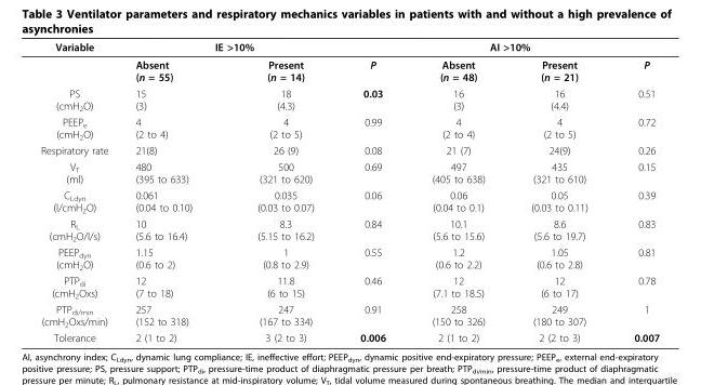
<table><thead><tr><td rowspan="2">Variable</td><td colspan="2">IE &gt;10%</td><td rowspan="2">P</td><td colspan="2">AI &gt;10%</td><td rowspan="2">P</td></tr><tr><td>Absent (n = 55)</td><td>Present (n = 14)</td><td>Absent (n = 48)</td><td>Present (n = 21)</td></tr></thead><tbody><tr><td>PS (cmH<sub>2</sub>O)</td><td>15 (3)</td><td>18 (4.3)</td><td>0.03</td><td>16 (3)</td><td>16 (4.4)</td><td>0.51</td></tr><tr><td>PEEP<sub>e</sub> (cmH<sub>2</sub>O)</td><td>4 (2 to 4)</td><td>4 (2 to 5)</td><td>0.99</td><td>4 (2 to 4)</td><td>4 (2 to 5)</td><td>0.72</td></tr><tr><td>Respiratory rate</td><td>21(8)</td><td>26 (9)</td><td>0.08</td><td>21 (7)</td><td>24(9)</td><td>0.26</td></tr><tr><td>V<sub>T</sub> (ml)</td><td>480 (395 to 633)</td><td>500 (321 to 620)</td><td>0.69</td><td>497 (405 to 638)</td><td>435 (321 to 610)</td><td>0.15</td></tr><tr><td>C<sub>Ldyn</sub> (l/cmH<sub>2</sub>O)</td><td>0.061 (0.04 to 0.10)</td><td>0.035 (0.03 to 0.07)</td><td>0.06</td><td>0.06 (0.04 to 0.1)</td><td>0.05 (0.03 to 0.11)</td><td>0.39</td></tr><tr><td>R<sub>L</sub> (cmH<sub>2</sub>O/l/s)</td><td>10 (5.6 to 16.4)</td><td>8.3 (5.15 to 16.2)</td><td>0.84</td><td>10.1 (5.6 to 15.6)</td><td>8.6 (5.6 to 19.7)</td><td>0.83</td></tr><tr><td>PEEP<sub>dyn</sub> (cmH<sub>2</sub>O)</td><td>1.15 (0.6 to 2)</td><td>1 (0.8 to 2.9)</td><td>0.55</td><td>1.2 (0.6 to 2.2)</td><td>1.05 (0.6 to 2.8)</td><td>0.81</td></tr><tr><td>PTP<sub>di</sub> (cmH<sub>2</sub>Oxs)</td><td>12 (7 to 18)</td><td>11.8 (6 to 15)</td><td>0.46</td><td>12 (7.1 to 18.5)</td><td>12 (6 to 17)</td><td>0.78</td></tr><tr><td>PTP<sub>di/min</sub> (cmH<sub>2</sub>Oxs/min)</td><td>257 (152 to 318)</td><td>247 (167 to 334)</td><td>0.91</td><td>258 (150 to 326)</td><td>249 (180 to 307)</td><td>1</td></tr><tr><td>Tolerance</td><td>2 (1 to 2)</td><td>3 (2 to 3)</td><td>0.006</td><td>2 (1 to 2)</td><td>2 (2 to 3)</td><td>0.007</td></tr></tbody></table>